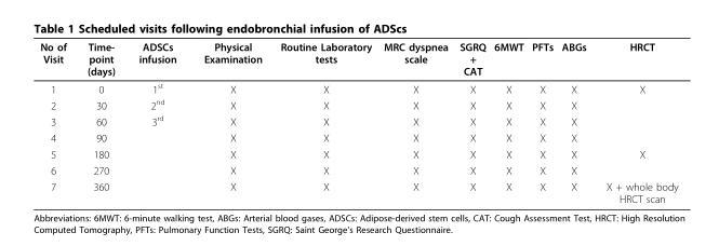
<table><thead><tr><td>No of Visit</td><td>Time- point (days)</td><td>ADSCs infusion</td><td>Physical Examination</td><td>Routine Laboratory tests</td><td>MRC dyspnea scale</td><td>SGRQ + CAT</td><td>6MWT</td><td>PFTs</td><td>ABGs</td><td>HRCT</td></tr></thead><tbody><tr><td>1</td><td>0</td><td>1<sup>st</sup></td><td>X</td><td>X</td><td>X</td><td>X</td><td>X</td><td>X</td><td>X</td><td>X</td></tr><tr><td>2</td><td>30</td><td>2<sup>nd</sup></td><td>X</td><td>X</td><td>X</td><td>X</td><td>X</td><td>X</td><td>X</td><td></td></tr><tr><td>3</td><td>60</td><td>3<sup>rd</sup></td><td>X</td><td>X</td><td>X</td><td>X</td><td>X</td><td>X</td><td>X</td><td></td></tr><tr><td>4</td><td>90</td><td></td><td>X</td><td>X</td><td>X</td><td>X</td><td>X</td><td>X</td><td>X</td><td></td></tr><tr><td>5</td><td>180</td><td></td><td>X</td><td>X</td><td>X</td><td>X</td><td>X</td><td>X</td><td>X</td><td>X</td></tr><tr><td>6</td><td>270</td><td></td><td>X</td><td>X</td><td>X</td><td>X</td><td>X</td><td>X</td><td>X</td><td></td></tr><tr><td>7</td><td>360</td><td></td><td>X</td><td>X</td><td>X</td><td>X</td><td>X</td><td>X</td><td>X</td><td>X + whole body HRCT scan</td></tr></tbody></table>